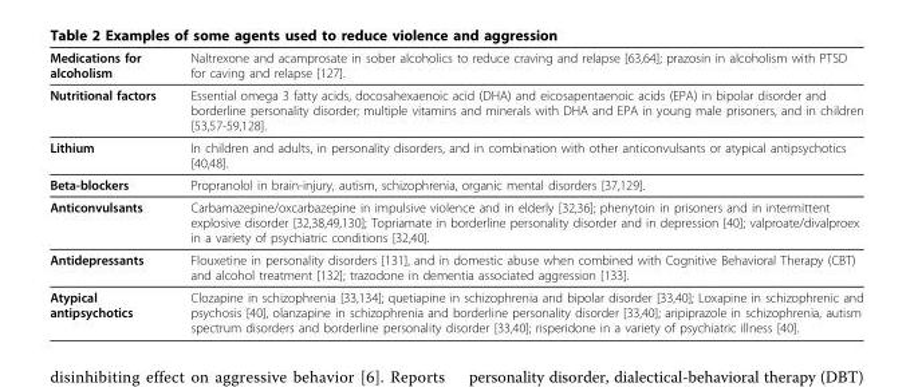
<table><thead><tr><td>Medications for alcoholism</td><td>Naltrexone and acamprosate in sober alcoholics to reduce craving and relapse [63,64]; prazosin in alcoholism with PTSD for caving and relapse [127].</td></tr></thead><tbody><tr><td>Nutritional factors</td><td>Essential omega 3 fatty acids, docosahexaenoic acid (DHA) and eicosapentaenoic acids (EPA) in bipolar disorder and borderline personality disorder; multiple vitamins and minerals with DHA and EPA in young male prisoners, and in children [53,57-59,128].</td></tr><tr><td>Lithium</td><td>In children and adults, in personality disorders, and in combination with other anticonvulsants or atypical antipsychotics [40,48].</td></tr><tr><td>Beta-blockers</td><td>Propranolol in brain-injury, autism, schizophrenia, organic mental disorders [37,129].</td></tr><tr><td>Anticonvulsants</td><td>Carbamazepine/oxcarbazepine in impulsive violence and in elderly [32,36]; phenytoin in prisoners and in intermittent explosive disorder [32,38,49,130]; Topriamate in borderline personality disorder and in depression [40]; valproate/divalproex in a variety of psychiatric conditions [32,40].</td></tr><tr><td>Antidepressants</td><td>Flouxetine in personality disorders [131], and in domestic abuse when combined with Cognitive Behavioral Therapy (CBT) and alcohol treatment [132]; trazodone in dementia associated aggression [133].</td></tr><tr><td>Atypical antipsychotics</td><td>Clozapine in schizophrenia [33,134]; quetiapine in schizophrenia and bipolar disorder [33,40]; Loxapine in schizophrenic and psychosis [40], olanzapine in schizophrenia and borderline personality disorder [33,40]; aripiprazole in schizophrenia, autism spectrum disorders and borderline personality disorder [33,40]; risperidone in a variety of psychiatric illness [40].</td></tr></tbody></table>